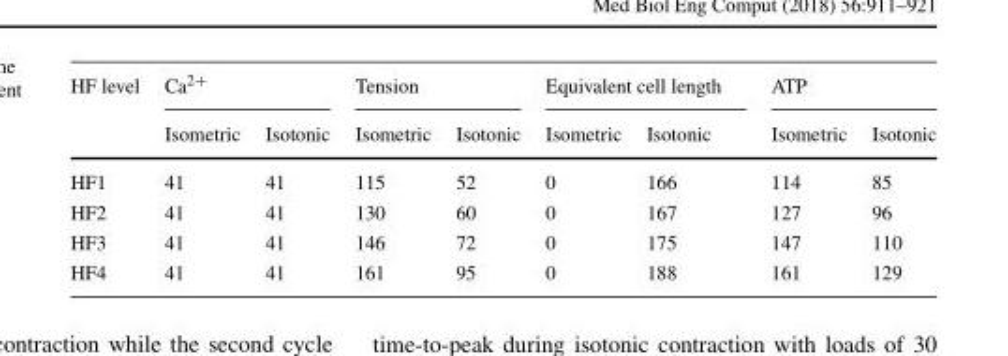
<table><thead><tr><td rowspan="2">HF level</td><td colspan="2">Ca<sup>2+</sup></td><td colspan="2">Tension</td><td colspan="2">Equivalent cell length</td><td colspan="2">ATP</td></tr><tr><td>Isometric</td><td>Isotonic</td><td>Isometric</td><td>Isotonic</td><td>Isometric</td><td>Isotonic</td><td>Isometric</td><td>Isotonic</td></tr></thead><tbody><tr><td>HF1</td><td>41</td><td>41</td><td>115</td><td>52</td><td>0</td><td>166</td><td>114</td><td>85</td></tr><tr><td>HF2</td><td>41</td><td>41</td><td>130</td><td>60</td><td>0</td><td>167</td><td>127</td><td>96</td></tr><tr><td>HF3</td><td>41</td><td>41</td><td>146</td><td>72</td><td>0</td><td>175</td><td>147</td><td>110</td></tr><tr><td>HF4</td><td>41</td><td>41</td><td>161</td><td>95</td><td>0</td><td>188</td><td>161</td><td>129</td></tr></tbody></table>